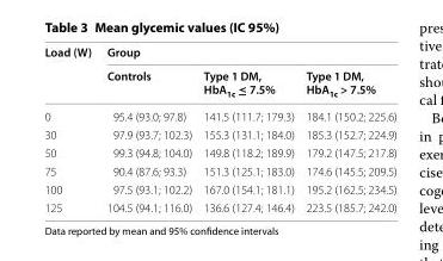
<table><thead><tr><td rowspan="2">Load (W)</td><td colspan="3">Group</td></tr><tr><td>Controls</td><td>Type 1 DM, HbA<sub>1c</sub> ≤ 7.5%</td><td>Type 1 DM, HbA<sub>1c</sub> &gt; 7.5%</td></tr></thead><tbody><tr><td>0</td><td>95.4 (93.0; 97.8)</td><td>141.5 (111.7; 179.3)</td><td>184.1 (150.2; 225.6)</td></tr><tr><td>30</td><td>97.9 (93.7; 102.3)</td><td>155.3 (131.1; 184.0)</td><td>185.3 (152.7; 224.9)</td></tr><tr><td>50</td><td>99.3 (94.8; 104.0)</td><td>149.8 (118.2; 189.9)</td><td>179.2 (147.5; 217.8)</td></tr><tr><td>75</td><td>90.4 (87.6; 93.3)</td><td>151.3 (125.1; 183.0)</td><td>174.6 (145.5; 209.5)</td></tr><tr><td>100</td><td>97.5 (93.1; 102.2)</td><td>167.0 (154.1; 181.1)</td><td>195.2 (162.5; 234.5)</td></tr><tr><td>125</td><td>104.5 (94.1; 116.0)</td><td>136.6 (127.4; 146.4)</td><td>223.5 (185.7; 242.0)</td></tr></tbody></table>